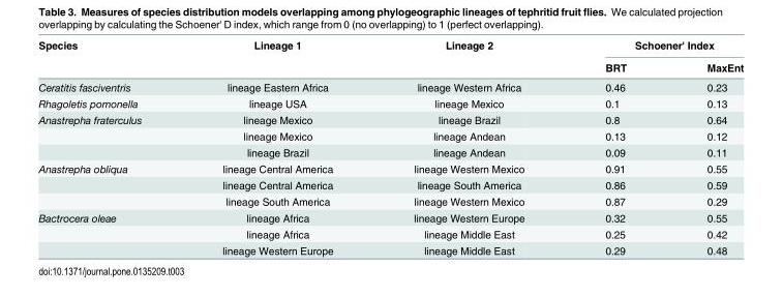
<table><thead><tr><td rowspan="2">Species</td><td rowspan="2">Lineage 1</td><td rowspan="2">Lineage 2</td><td colspan="2">Schoener&#x27; Index</td></tr><tr><td>BRT</td><td>MaxEnt</td></tr></thead><tbody><tr><td>Ceratitis fasciventris</td><td>lineage Eastern Africa</td><td>lineage Western Africa</td><td>0.46</td><td>0.23</td></tr><tr><td>Rhagoletis pomonella</td><td>lineage USA</td><td>lineage Mexico</td><td>0.1</td><td>0.13</td></tr><tr><td rowspan="3">Anastrepha fraterculus</td><td>lineage Mexico</td><td>lineage Brazil</td><td>0.8</td><td>0.64</td></tr><tr><td>lineage Mexico</td><td>lineage Andean</td><td>0.13</td><td>0.12</td></tr><tr><td>lineage Brazil</td><td>lineage Andean</td><td>0.09</td><td>0.11</td></tr><tr><td rowspan="3">Anastrepha obliqua</td><td>lineage Central America</td><td>lineage Western Mexico</td><td>0.91</td><td>0.55</td></tr><tr><td>lineage Central America</td><td>lineage South America</td><td>0.86</td><td>0.59</td></tr><tr><td>lineage South America</td><td>lineage Western Mexico</td><td>0.87</td><td>0.29</td></tr><tr><td rowspan="3">Bactrocera oleae</td><td>lineage Africa</td><td>lineage Western Europe</td><td>0.32</td><td>0.55</td></tr><tr><td>lineage Africa</td><td>lineage Middle East</td><td>0.25</td><td>0.42</td></tr><tr><td>lineage Western Europe</td><td>lineage Middle East</td><td>0.29</td><td>0.48</td></tr></tbody></table>